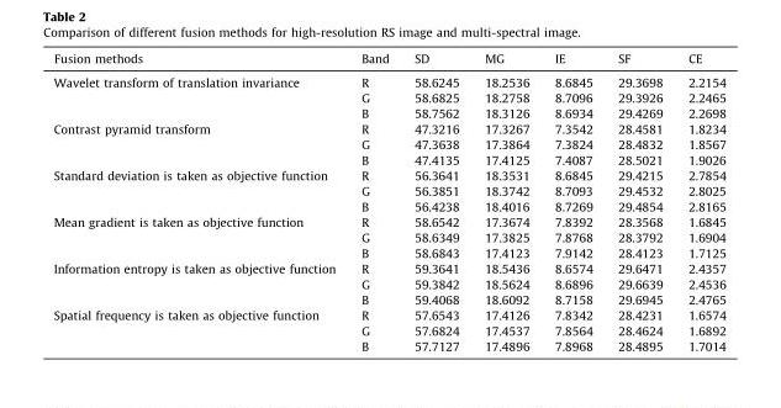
<table><thead><tr><td>Fusion methods</td><td>Band</td><td>SD</td><td>MG</td><td>IE</td><td>SF</td><td>CE</td></tr></thead><tbody><tr><td rowspan="3">Wavelet transform of translation invariance</td><td>R</td><td>58.6245</td><td>18.2536</td><td>8.6845</td><td>29.3698</td><td>2.2154</td></tr><tr><td>G</td><td>58.6825</td><td>18.2758</td><td>8.7096</td><td>29.3926</td><td>2.2465</td></tr><tr><td>B</td><td>58.7562</td><td>18.3126</td><td>8.6934</td><td>29.4269</td><td>2.2698</td></tr><tr><td rowspan="3">Contrast pyramid transform</td><td>R</td><td>47.3216</td><td>17.3267</td><td>7.3542</td><td>28.4581</td><td>1.8234</td></tr><tr><td>G</td><td>47.3638</td><td>17.3864</td><td>7.3824</td><td>28.4832</td><td>1.8567</td></tr><tr><td>B</td><td>47.4135</td><td>17.4125</td><td>7.4087</td><td>28.5021</td><td>1.9026</td></tr><tr><td rowspan="3">Standard deviation is taken as objective function</td><td>R</td><td>56.3641</td><td>18.3531</td><td>8.6845</td><td>29.4215</td><td>2.7854</td></tr><tr><td>G</td><td>56.3851</td><td>18.3742</td><td>8.7093</td><td>29.4532</td><td>2.8025</td></tr><tr><td>B</td><td>56.4238</td><td>18.4016</td><td>8.7269</td><td>29.4854</td><td>2.8165</td></tr><tr><td rowspan="3">Mean gradient is taken as objective function</td><td>R</td><td>58.6542</td><td>17.3674</td><td>7.8392</td><td>28.3568</td><td>1.6845</td></tr><tr><td>G</td><td>58.6349</td><td>17.3825</td><td>7.8768</td><td>28.3792</td><td>1.6904</td></tr><tr><td>B</td><td>58.6843</td><td>17.4123</td><td>7.9142</td><td>28.4123</td><td>1.7125</td></tr><tr><td rowspan="3">Information entropy is taken as objective function</td><td>R</td><td>59.3641</td><td>18.5436</td><td>8.6574</td><td>29.6471</td><td>2.4357</td></tr><tr><td>G</td><td>59.3842</td><td>18.5624</td><td>8.6896</td><td>29.6639</td><td>2.4536</td></tr><tr><td>B</td><td>59.4068</td><td>18.6092</td><td>8.7158</td><td>29.6945</td><td>2.4765</td></tr><tr><td rowspan="3">Spatial frequency is taken as objective function</td><td>R</td><td>57.6543</td><td>17.4126</td><td>7.8342</td><td>28.4231</td><td>1.6574</td></tr><tr><td>G</td><td>57.6824</td><td>17.4537</td><td>7.8564</td><td>28.4624</td><td>1.6892</td></tr><tr><td>B</td><td>57.7127</td><td>17.4896</td><td>7.8968</td><td>28.4895</td><td>1.7014</td></tr></tbody></table>